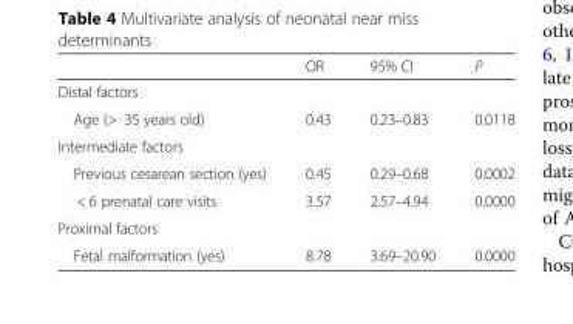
<table><thead><tr><td></td><td>OR</td><td>95% CI</td><td>P</td></tr></thead><tbody><tr><td colspan="4">Distal factors</td></tr><tr><td>Age (&gt; 35 years old)</td><td>0.43</td><td>0.23–0.83</td><td>0.0118</td></tr><tr><td colspan="4">Intermediate factors</td></tr><tr><td>Previous cesarean section (yes)</td><td>0.45</td><td>0.29–0.68</td><td>0.0002</td></tr><tr><td>&lt; 6 prenatal care visits</td><td>3.57</td><td>2.57–4.94</td><td>0.0000</td></tr><tr><td colspan="4">Proximal factors</td></tr><tr><td>Fetal malformation (yes)</td><td>8.78</td><td>3.69–20.90</td><td>0.0000</td></tr></tbody></table>